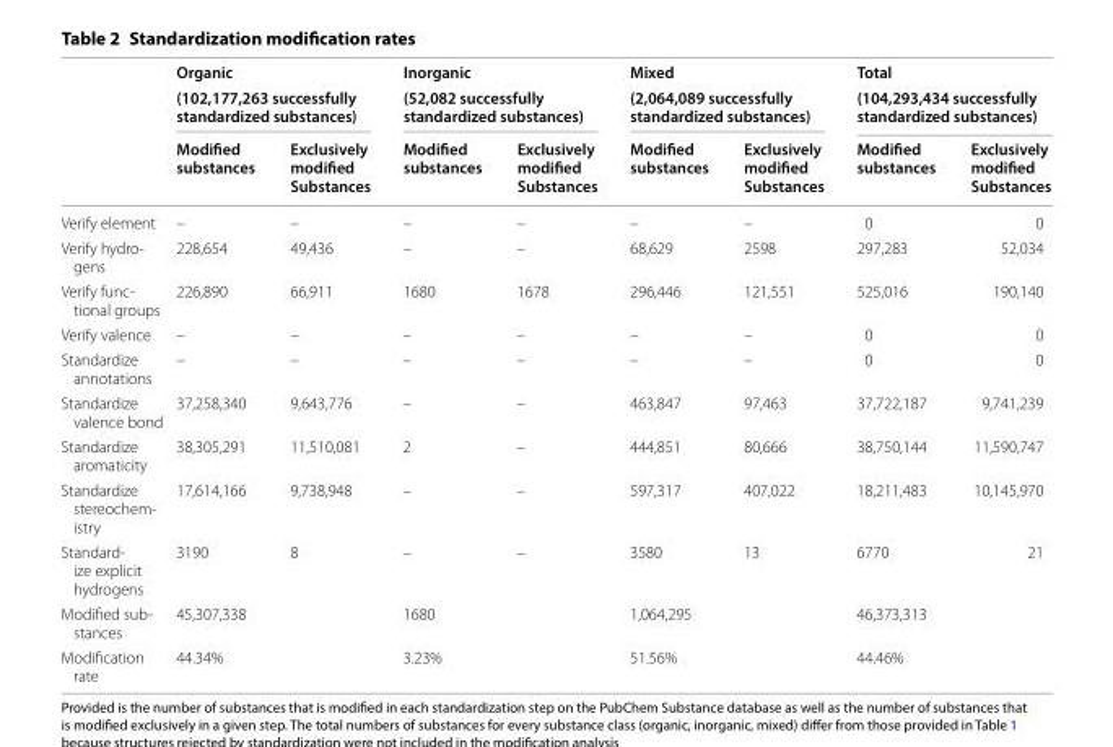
<table><thead><tr><td rowspan="3"></td><td>Organic</td><td></td><td>Inorganic</td><td></td><td>Mixed</td><td></td><td>Total</td><td></td></tr><tr><td colspan="2">(102,177,263 successfully standardized substances)</td><td colspan="2">(52,082 successfully standardized substances)</td><td colspan="2">(2,064,089 successfully standardized substances)</td><td colspan="2">(104,293,434 successfully standardized substances)</td></tr><tr><td>Modified substances</td><td>Exclusively modified Substances</td><td>Modified substances</td><td>Exclusively modified Substances</td><td>Modified substances</td><td>Exclusively modified Substances</td><td>Modified substances</td><td>Exclusively modified Substances</td></tr></thead><tbody><tr><td>Verify element</td><td>–</td><td>–</td><td>–</td><td>–</td><td>–</td><td>–</td><td>0</td><td>0</td></tr><tr><td>Verify hydro- gens</td><td>228,654</td><td>49,436</td><td>–</td><td>–</td><td>68,629</td><td>2598</td><td>297,283</td><td>52,034</td></tr><tr><td>Verify func- tional groups</td><td>226,890</td><td>66,911</td><td>1680</td><td>1678</td><td>296,446</td><td>121,551</td><td>525,016</td><td>190,140</td></tr><tr><td>Verify valence</td><td>–</td><td>–</td><td>–</td><td>–</td><td>–</td><td>–</td><td>0</td><td>0</td></tr><tr><td>Standardize annotations</td><td>–</td><td>–</td><td>–</td><td>–</td><td>–</td><td>–</td><td>0</td><td>0</td></tr><tr><td>Standardize valence bond</td><td>37,258,340</td><td>9,643,776</td><td>–</td><td>–</td><td>463,847</td><td>97,463</td><td>37,722,187</td><td>9,741,239</td></tr><tr><td>Standardize aromaticity</td><td>38,305,291</td><td>11,510,081</td><td>2</td><td>–</td><td>444,851</td><td>80,666</td><td>38,750,144</td><td>11,590,747</td></tr><tr><td>Standardize stereochem- istry</td><td>17,614,166</td><td>9,738,948</td><td>–</td><td>–</td><td>597,317</td><td>407,022</td><td>18,211,483</td><td>10,145,970</td></tr><tr><td>Standard- ize explicit hydrogens</td><td>3190</td><td>8</td><td>–</td><td>–</td><td>3580</td><td>13</td><td>6770</td><td>21</td></tr><tr><td>Modified sub- stances</td><td>45,307,338</td><td></td><td>1680</td><td></td><td>1,064,295</td><td></td><td>46,373,313</td><td></td></tr><tr><td>Modification rate</td><td>44.34%</td><td></td><td>3.23%</td><td></td><td>51.56%</td><td></td><td>44.46%</td><td></td></tr></tbody></table>